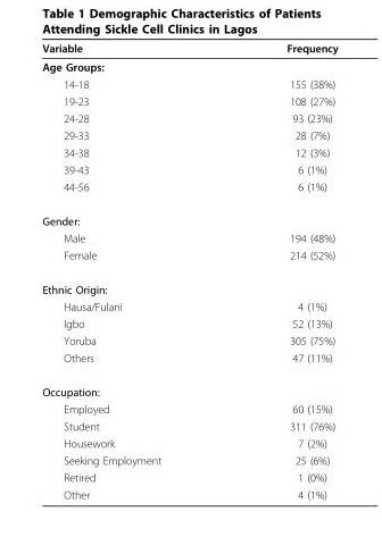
<table><thead><tr><td>Variable</td><td>Frequency</td></tr></thead><tbody><tr><td colspan="2">Age Groups:</td></tr><tr><td>14-18</td><td>155 (38%)</td></tr><tr><td>19-23</td><td>108 (27%)</td></tr><tr><td>24-28</td><td>93 (23%)</td></tr><tr><td>29-33</td><td>28 (7%)</td></tr><tr><td>34-38</td><td>12 (3%)</td></tr><tr><td>39-43</td><td>6 (1%)</td></tr><tr><td>44-56</td><td>6 (1%)</td></tr><tr><td colspan="2">Gender:</td></tr><tr><td>Male</td><td>194 (48%)</td></tr><tr><td>Female</td><td>214 (52%)</td></tr><tr><td colspan="2">Ethnic Origin:</td></tr><tr><td>Hausa/Fulani</td><td>4 (1%)</td></tr><tr><td>Igbo</td><td>52 (13%)</td></tr><tr><td>Yoruba</td><td>305 (75%)</td></tr><tr><td>Others</td><td>47 (11%)</td></tr><tr><td colspan="2">Occupation:</td></tr><tr><td>Employed</td><td>60 (15%)</td></tr><tr><td>Student</td><td>311 (76%)</td></tr><tr><td>Housework</td><td>7 (2%)</td></tr><tr><td>Seeking Employment</td><td>25 (6%)</td></tr><tr><td>Retired</td><td>1 (0%)</td></tr><tr><td>Other</td><td>4 (1%)</td></tr></tbody></table>